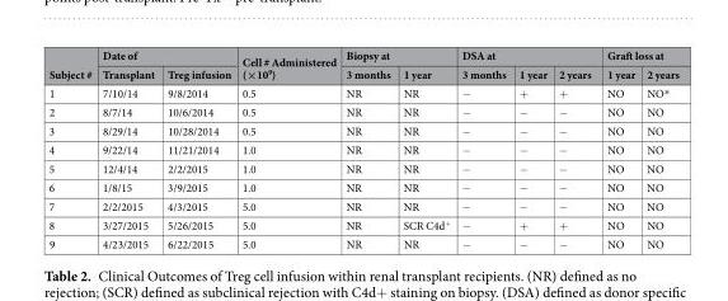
<table><thead><tr><td rowspan="2">Subject #</td><td colspan="2">Date of</td><td rowspan="2">Cell # Administered (×10<sup>9</sup>)</td><td colspan="2">Biopsy at</td><td colspan="3">DSA at</td><td colspan="2">Graft loss at</td></tr><tr><td>Transplant</td><td>Treg infusion</td><td>3 months</td><td>1 year</td><td>3 months</td><td>1 year</td><td>2 years</td><td>1 year</td><td>2 years</td></tr></thead><tbody><tr><td>1</td><td>7/10/14</td><td>9/8/2014</td><td>0.5</td><td>NR</td><td>NR</td><td>−</td><td>+</td><td>+</td><td>NO</td><td>NO*</td></tr><tr><td>2</td><td>8/7/14</td><td>10/6/2014</td><td>0.5</td><td>NR</td><td>NR</td><td>−</td><td>−</td><td>−</td><td>NO</td><td>NO</td></tr><tr><td>3</td><td>8/29/14</td><td>10/28/2014</td><td>0.5</td><td>NR</td><td>NR</td><td>−</td><td>−</td><td>−</td><td>NO</td><td>NO</td></tr><tr><td>4</td><td>9/22/14</td><td>11/21/2014</td><td>1.0</td><td>NR</td><td>NR</td><td>−</td><td>−</td><td>−</td><td>NO</td><td>NO</td></tr><tr><td>5</td><td>12/4/14</td><td>2/2/2015</td><td>1.0</td><td>NR</td><td>NR</td><td>−</td><td>−</td><td>−</td><td>NO</td><td>NO</td></tr><tr><td>6</td><td>1/8/15</td><td>3/9/2015</td><td>1.0</td><td>NR</td><td>NR</td><td>−</td><td>−</td><td>−</td><td>NO</td><td>NO</td></tr><tr><td>7</td><td>2/2/2015</td><td>4/3/2015</td><td>5.0</td><td>NR</td><td>NR</td><td>−</td><td>−</td><td>−</td><td>NO</td><td>NO</td></tr><tr><td>8</td><td>3/27/2015</td><td>5/26/2015</td><td>5.0</td><td>NR</td><td>SCR C4d<sup>+</sup></td><td>−</td><td>+</td><td>+</td><td>NO</td><td>NO</td></tr><tr><td>9</td><td>4/23/2015</td><td>6/22/2015</td><td>5.0</td><td>NR</td><td>NR</td><td>−</td><td>−</td><td>−</td><td>NO</td><td>NO</td></tr></tbody></table>